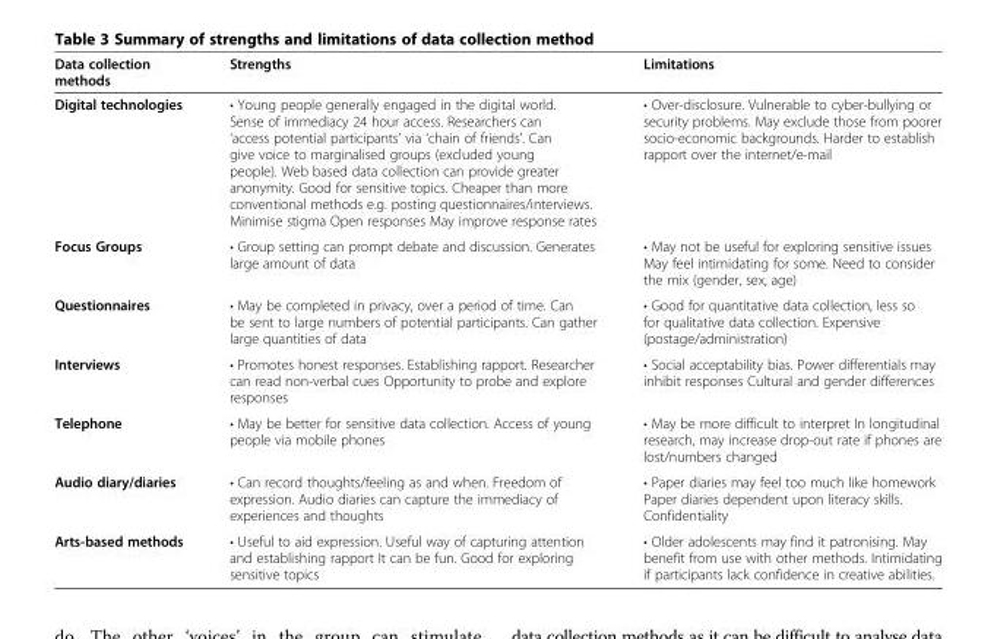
<table><thead><tr><td>Data collection methods</td><td>Strengths</td><td>Limitations</td></tr></thead><tbody><tr><td>Digital technologies</td><td>• Young people generally engaged in the digital world. Sense of immediacy 24 hour access. Researchers can ‘access potential participants’ via ‘chain of friends’. Can give voice to marginalised groups (excluded young people). Web based data collection can provide greater anonymity. Good for sensitive topics. Cheaper than more conventional methods e.g. posting questionnaires/interviews. Minimise stigma Open responses May improve response rates</td><td>• Over-disclosure. Vulnerable to cyber-bullying or security problems. May exclude those from poorer socio-economic backgrounds. Harder to establish rapport over the internet/e-mail</td></tr><tr><td>Focus Groups</td><td>• Group setting can prompt debate and discussion. Generates large amount of data</td><td>• May not be useful for exploring sensitive issues May feel intimidating for some. Need to consider the mix (gender, sex, age)</td></tr><tr><td>Questionnaires</td><td>• May be completed in privacy, over a period of time. Can be sent to large numbers of potential participants. Can gather large quantities of data</td><td>• Good for quantitative data collection, less so for qualitative data collection. Expensive (postage/administration)</td></tr><tr><td>Interviews</td><td>• Promotes honest responses. Establishing rapport. Researcher can read non-verbal cues Opportunity to probe and explore responses</td><td>• Social acceptability bias. Power differentials may inhibit responses Cultural and gender differences</td></tr><tr><td>Telephone</td><td>• May be better for sensitive data collection. Access of young people via mobile phones</td><td>• May be more difficult to interpret In longitudinal research, may increase drop-out rate if phones are lost/numbers changed</td></tr><tr><td>Audio diary/diaries</td><td>• Can record thoughts/feeling as and when. Freedom of expression. Audio diaries can capture the immediacy of experiences and thoughts</td><td>• Paper diaries may feel too much like homework Paper diaries dependent upon literacy skills. Confidentiality</td></tr><tr><td>Arts-based methods</td><td>• Useful to aid expression. Useful way of capturing attention and establishing rapport It can be fun. Good for exploring sensitive topics</td><td>• Older adolescents may find it patronising. May benefit from use with other methods. Intimidating if participants lack confidence in creative abilities.</td></tr></tbody></table>